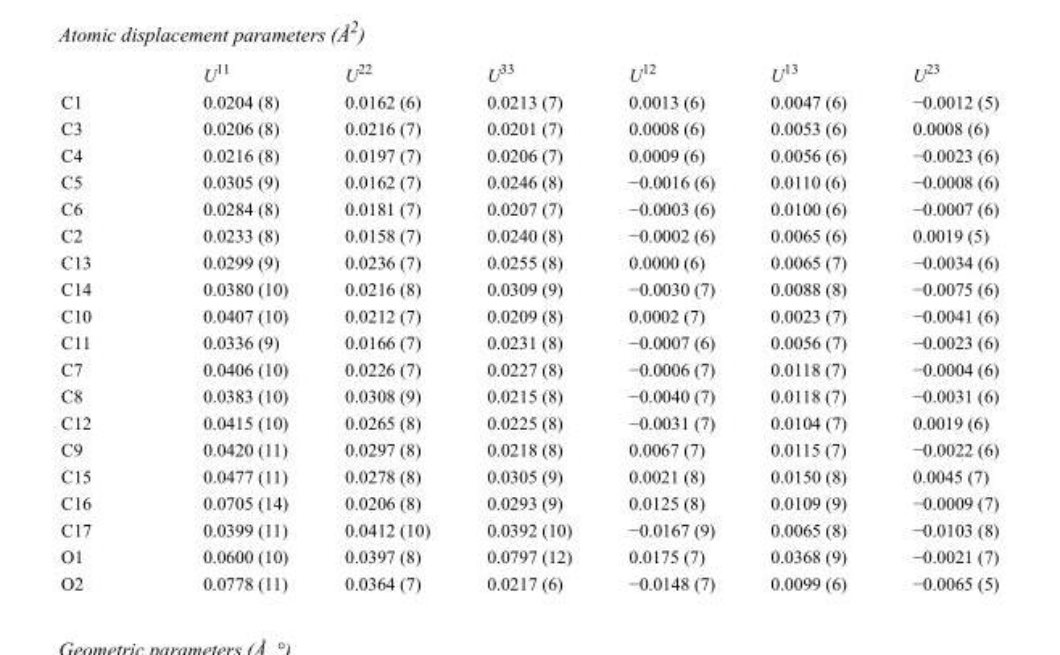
<table><thead><tr><td></td><td>U<sup>11</sup></td><td>U<sup>22</sup></td><td>U<sup>33</sup></td><td>U<sup>12</sup></td><td>U<sup>13</sup></td><td>U<sup>23</sup></td></tr></thead><tbody><tr><td>C1</td><td>0.0204 (8)</td><td>0.0162 (6)</td><td>0.0213 (7)</td><td>0.0013 (6)</td><td>0.0047 (6)</td><td>−0.0012 (5)</td></tr><tr><td>C3</td><td>0.0206 (8)</td><td>0.0216 (7)</td><td>0.0201 (7)</td><td>0.0008 (6)</td><td>0.0053 (6)</td><td>0.0008 (6)</td></tr><tr><td>C4</td><td>0.0216 (8)</td><td>0.0197 (7)</td><td>0.0206 (7)</td><td>0.0009 (6)</td><td>0.0056 (6)</td><td>−0.0023 (6)</td></tr><tr><td>C5</td><td>0.0305 (9)</td><td>0.0162 (7)</td><td>0.0246 (8)</td><td>−0.0016 (6)</td><td>0.0110 (6)</td><td>−0.0008 (6)</td></tr><tr><td>C6</td><td>0.0284 (8)</td><td>0.0181 (7)</td><td>0.0207 (7)</td><td>−0.0003 (6)</td><td>0.0100 (6)</td><td>−0.0007 (6)</td></tr><tr><td>C2</td><td>0.0233 (8)</td><td>0.0158 (7)</td><td>0.0240 (8)</td><td>−0.0002 (6)</td><td>0.0065 (6)</td><td>0.0019 (5)</td></tr><tr><td>C13</td><td>0.0299 (9)</td><td>0.0236 (7)</td><td>0.0255 (8)</td><td>0.0000 (6)</td><td>0.0065 (7)</td><td>−0.0034 (6)</td></tr><tr><td>C14</td><td>0.0380 (10)</td><td>0.0216 (8)</td><td>0.0309 (9)</td><td>−0.0030 (7)</td><td>0.0088 (8)</td><td>−0.0075 (6)</td></tr><tr><td>C10</td><td>0.0407 (10)</td><td>0.0212 (7)</td><td>0.0209 (8)</td><td>0.0002 (7)</td><td>0.0023 (7)</td><td>−0.0041 (6)</td></tr><tr><td>C11</td><td>0.0336 (9)</td><td>0.0166 (7)</td><td>0.0231 (8)</td><td>−0.0007 (6)</td><td>0.0056 (7)</td><td>−0.0023 (6)</td></tr><tr><td>C7</td><td>0.0406 (10)</td><td>0.0226 (7)</td><td>0.0227 (8)</td><td>−0.0006 (7)</td><td>0.0118 (7)</td><td>−0.0004 (6)</td></tr><tr><td>C8</td><td>0.0383 (10)</td><td>0.0308 (9)</td><td>0.0215 (8)</td><td>−0.0040 (7)</td><td>0.0118 (7)</td><td>−0.0031 (6)</td></tr><tr><td>C12</td><td>0.0415 (10)</td><td>0.0265 (8)</td><td>0.0225 (8)</td><td>−0.0031 (7)</td><td>0.0104 (7)</td><td>0.0019 (6)</td></tr><tr><td>C9</td><td>0.0420 (11)</td><td>0.0297 (8)</td><td>0.0218 (8)</td><td>0.0067 (7)</td><td>0.0115 (7)</td><td>−0.0022 (6)</td></tr><tr><td>C15</td><td>0.0477 (11)</td><td>0.0278 (8)</td><td>0.0305 (9)</td><td>0.0021 (8)</td><td>0.0150 (8)</td><td>0.0045 (7)</td></tr><tr><td>C16</td><td>0.0705 (14)</td><td>0.0206 (8)</td><td>0.0293 (9)</td><td>0.0125 (8)</td><td>0.0109 (9)</td><td>−0.0009 (7)</td></tr><tr><td>C17</td><td>0.0399 (11)</td><td>0.0412 (10)</td><td>0.0392 (10)</td><td>−0.0167 (9)</td><td>0.0065 (8)</td><td>−0.0103 (8)</td></tr><tr><td>O1</td><td>0.0600 (10)</td><td>0.0397 (8)</td><td>0.0797 (12)</td><td>0.0175 (7)</td><td>0.0368 (9)</td><td>−0.0021 (7)</td></tr><tr><td>O2</td><td>0.0778 (11)</td><td>0.0364 (7)</td><td>0.0217 (6)</td><td>−0.0148 (7)</td><td>0.0099 (6)</td><td>−0.0065 (5)</td></tr></tbody></table>